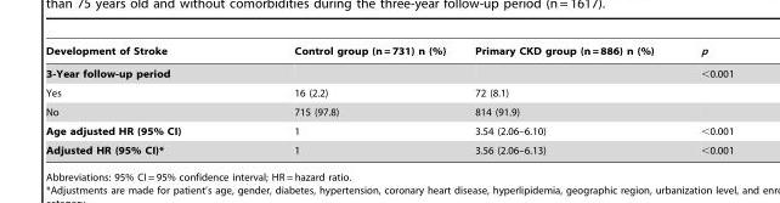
<table><thead><tr><td>Development of Stroke</td><td>Control group (n = 731) n (%)</td><td>Primary CKD group (n = 886) n (%)</td><td>p</td></tr></thead><tbody><tr><td>3-Year follow-up period</td><td></td><td></td><td>&lt;0.001</td></tr><tr><td>Yes</td><td>16 (2.2)</td><td>72 (8.1)</td><td></td></tr><tr><td>No</td><td>715 (97.8)</td><td>814 (91.9)</td><td></td></tr><tr><td>Age adjusted HR (95% CI)</td><td>1</td><td>3.54 (2.06–6.10)</td><td>&lt;0.001</td></tr><tr><td>Adjusted HR (95% CI)*</td><td>1</td><td>3.56 (2.06–6.13)</td><td>&lt;0.001</td></tr></tbody></table>